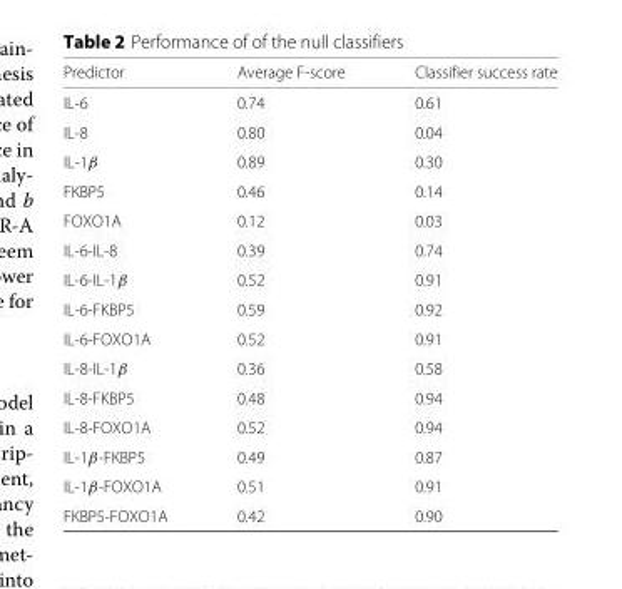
<table><thead><tr><td>Predictor</td><td>Average F-score</td><td>Classifier success rate</td></tr></thead><tbody><tr><td>IL-6</td><td>0.74</td><td>0.61</td></tr><tr><td>IL-8</td><td>0.80</td><td>0.04</td></tr><tr><td>IL-1β</td><td>0.89</td><td>0.30</td></tr><tr><td>FKBP5</td><td>0.46</td><td>0.14</td></tr><tr><td>FOXO1A</td><td>0.12</td><td>0.03</td></tr><tr><td>IL-6-IL-8</td><td>0.39</td><td>0.74</td></tr><tr><td>IL-6-IL-1β</td><td>0.52</td><td>0.91</td></tr><tr><td>IL-6-FKBP5</td><td>0.59</td><td>0.92</td></tr><tr><td>IL-6-FOXO1A</td><td>0.52</td><td>0.91</td></tr><tr><td>IL-8-IL-1β</td><td>0.36</td><td>0.58</td></tr><tr><td>IL-8-FKBP5</td><td>0.48</td><td>0.94</td></tr><tr><td>IL-8-FOXO1A</td><td>0.52</td><td>0.94</td></tr><tr><td>IL-1β-FKBP5</td><td>0.49</td><td>0.87</td></tr><tr><td>IL-1β-FOXO1A</td><td>0.51</td><td>0.91</td></tr><tr><td>FKBP5-FOXO1A</td><td>0.42</td><td>0.90</td></tr></tbody></table>